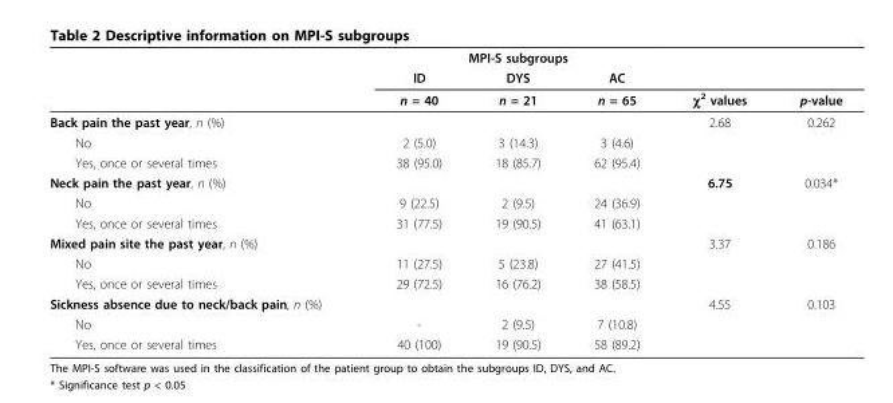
<table><thead><tr><td rowspan="3"></td><td colspan="3">MPI-S subgroups</td><td rowspan="3">χ<sup>2</sup> values</td><td rowspan="3">p-value</td></tr><tr><td rowspan="2">ID n = 40</td><td rowspan="2">DYS n = 21</td><td rowspan="2">AC n = 65</td></tr><tr></tr></thead><tbody><tr><td>Back pain the past year, n (%)</td><td></td><td></td><td></td><td>2.68</td><td>0.262</td></tr><tr><td>No</td><td>2 (5.0)</td><td>3 (14.3)</td><td>3 (4.6)</td><td></td><td></td></tr><tr><td>Yes, once or several times</td><td>38 (95.0)</td><td>18 (85.7)</td><td>62 (95.4)</td><td></td><td></td></tr><tr><td>Neck pain the past year, n (%)</td><td></td><td></td><td></td><td>6.75</td><td>0.034*</td></tr><tr><td>No</td><td>9 (22.5)</td><td>2 (9.5)</td><td>24 (36.9)</td><td></td><td></td></tr><tr><td>Yes, once or several times</td><td>31 (77.5)</td><td>19 (90.5)</td><td>41 (63.1)</td><td></td><td></td></tr><tr><td>Mixed pain site the past year, n (%)</td><td></td><td></td><td></td><td>3.37</td><td>0.186</td></tr><tr><td>No</td><td>11 (27.5)</td><td>5 (23.8)</td><td>27 (41.5)</td><td></td><td></td></tr><tr><td>Yes, once or several times</td><td>29 (72.5)</td><td>16 (76.2)</td><td>38 (58.5)</td><td></td><td></td></tr><tr><td>Sickness absence due to neck/back pain, n (%)</td><td></td><td></td><td></td><td>4.55</td><td>0.103</td></tr><tr><td>No</td><td>-</td><td>2 (9.5)</td><td>7 (10.8)</td><td></td><td></td></tr><tr><td>Yes, once or several times</td><td>40 (100)</td><td>19 (90.5)</td><td>58 (89.2)</td><td></td><td></td></tr></tbody></table>